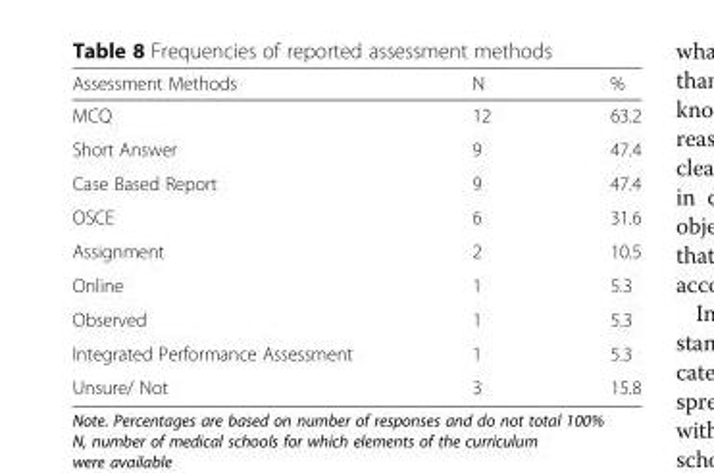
<table><thead><tr><td>Assessment Methods</td><td>N</td><td>%</td></tr></thead><tbody><tr><td>MCQ</td><td>12</td><td>63.2</td></tr><tr><td>Short Answer</td><td>9</td><td>47.4</td></tr><tr><td>Case Based Report</td><td>9</td><td>47.4</td></tr><tr><td>OSCE</td><td>6</td><td>31.6</td></tr><tr><td>Assignment</td><td>2</td><td>10.5</td></tr><tr><td>Online</td><td>1</td><td>5.3</td></tr><tr><td>Observed</td><td>1</td><td>5.3</td></tr><tr><td>Integrated Performance Assessment</td><td>1</td><td>5.3</td></tr><tr><td>Unsure/ Not</td><td>3</td><td>15.8</td></tr></tbody></table>